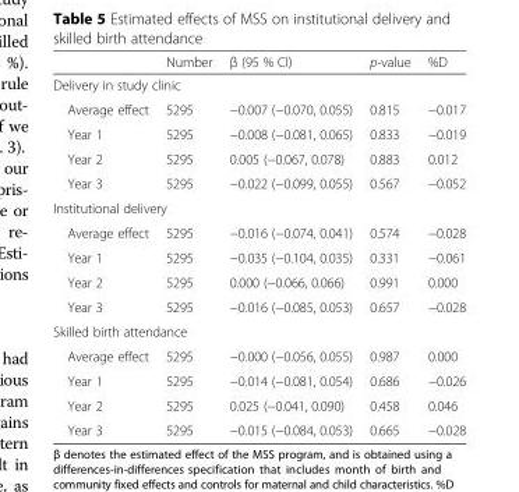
<table><thead><tr><td></td><td>Number</td><td>β (95 % CI)</td><td>p-value</td><td>%D</td></tr></thead><tbody><tr><td colspan="5">Delivery in study clinic</td></tr><tr><td>Average effect</td><td>5295</td><td>−0.007 (−0.070, 0.055)</td><td>0.815</td><td>−0.017</td></tr><tr><td>Year 1</td><td>5295</td><td>−0.008 (−0.081, 0.065)</td><td>0.833</td><td>−0.019</td></tr><tr><td>Year 2</td><td>5295</td><td>0.005 (−0.067, 0.078)</td><td>0.883</td><td>0.012</td></tr><tr><td>Year 3</td><td>5295</td><td>−0.022 (−0.099, 0.055)</td><td>0.567</td><td>−0.052</td></tr><tr><td colspan="5">Institutional delivery</td></tr><tr><td>Average effect</td><td>5295</td><td>−0.016 (−0.074, 0.041)</td><td>0.574</td><td>−0.028</td></tr><tr><td>Year 1</td><td>5295</td><td>−0.035 (−0.104, 0.035)</td><td>0.331</td><td>−0.061</td></tr><tr><td>Year 2</td><td>5295</td><td>0.000 (−0.066, 0.066)</td><td>0.991</td><td>0.000</td></tr><tr><td>Year 3</td><td>5295</td><td>−0.016 (−0.085, 0.053)</td><td>0.657</td><td>−0.028</td></tr><tr><td colspan="5">Skilled birth attendance</td></tr><tr><td>Average effect</td><td>5295</td><td>−0.000 (−0.056, 0.055)</td><td>0.987</td><td>0.000</td></tr><tr><td>Year 1</td><td>5295</td><td>−0.014 (−0.081, 0.054)</td><td>0.686</td><td>−0.026</td></tr><tr><td>Year 2</td><td>5295</td><td>0.025 (−0.041, 0.090)</td><td>0.458</td><td>0.046</td></tr><tr><td>Year 3</td><td>5295</td><td>−0.015 (−0.084, 0.053)</td><td>0.665</td><td>−0.028</td></tr></tbody></table>